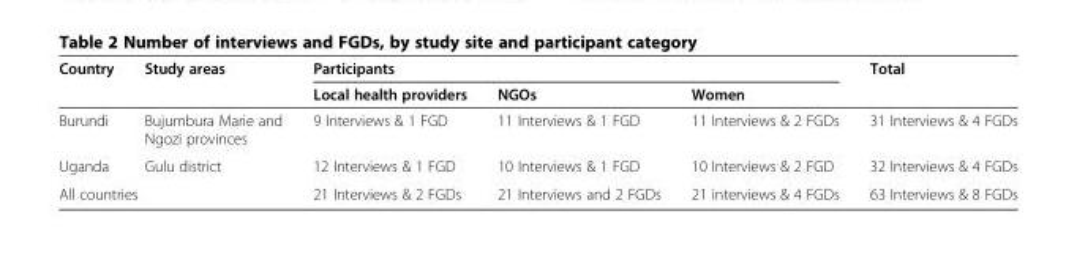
<table><thead><tr><td rowspan="2">Country</td><td rowspan="2">Study areas</td><td colspan="3">Participants</td><td rowspan="2">Total</td></tr><tr><td>Local health providers</td><td>NGOs</td><td>Women</td></tr></thead><tbody><tr><td>Burundi</td><td>Bujumbura Marie and Ngozi provinces</td><td>9 Interviews &amp; 1 FGD</td><td>11 Interviews &amp; 1 FGD</td><td>11 Interviews &amp; 2 FGDs</td><td>31 Interviews &amp; 4 FGDs</td></tr><tr><td>Uganda</td><td>Gulu district</td><td>12 Interviews &amp; 1 FGD</td><td>10 Interviews &amp; 1 FGD</td><td>10 Interviews &amp; 2 FGD</td><td>32 Interviews &amp; 4 FGDs</td></tr><tr><td colspan="2">All countries</td><td>21 Interviews &amp; 2 FGDs</td><td>21 Interviews and 2 FGDs</td><td>21 interviews &amp; 4 FGDs</td><td>63 Interviews &amp; 8 FGDs</td></tr></tbody></table>